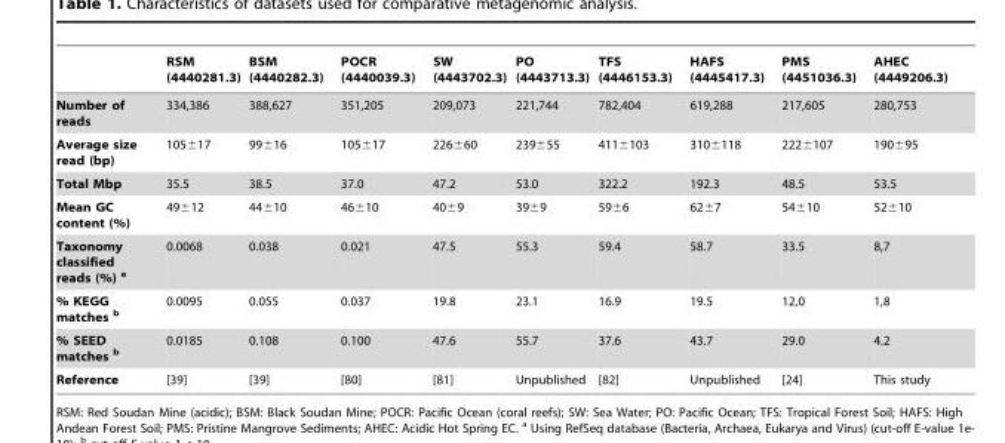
<table><thead><tr><td></td><td>RSM (4440281.3)</td><td>BSM (4440282.3)</td><td>POCR (4440039.3)</td><td>SW (4443702.3)</td><td>PO (4443713.3)</td><td>TFS (4446153.3)</td><td>HAFS (4445417.3)</td><td>PMS (4451036.3)</td><td>AHEC (4449206.3)</td></tr></thead><tbody><tr><td>Number of reads</td><td>334,386</td><td>388,627</td><td>351,205</td><td>209,073</td><td>221,744</td><td>782,404</td><td>619,288</td><td>217,605</td><td>280,753</td></tr><tr><td>Average size read (bp)</td><td>105±17</td><td>99±16</td><td>105±17</td><td>226±60</td><td>239±55</td><td>411±103</td><td>310±118</td><td>222±107</td><td>190±95</td></tr><tr><td>Total Mbp</td><td>35.5</td><td>38.5</td><td>37.0</td><td>47.2</td><td>53.0</td><td>322.2</td><td>192.3</td><td>48.5</td><td>53.5</td></tr><tr><td>Mean GC content (%)</td><td>49±12</td><td>44±10</td><td>46±10</td><td>40±9</td><td>39±9</td><td>59±6</td><td>62±7</td><td>54±10</td><td>52±10</td></tr><tr><td>Taxonomy classified reads (%) <sup>a</sup></td><td>0.0068</td><td>0.038</td><td>0.021</td><td>47.5</td><td>55.3</td><td>59.4</td><td>58.7</td><td>33.5</td><td>8,7</td></tr><tr><td>% KEGG matches <sup>b</sup></td><td>0.0095</td><td>0.055</td><td>0.037</td><td>19.8</td><td>23.1</td><td>16.9</td><td>19.5</td><td>12,0</td><td>1,8</td></tr><tr><td>% SEED matches <sup>b</sup></td><td>0.0185</td><td>0.108</td><td>0.100</td><td>47.6</td><td>55.7</td><td>37.6</td><td>43.7</td><td>29.0</td><td>4.2</td></tr><tr><td>Reference</td><td>[39]</td><td>[39]</td><td>[80]</td><td>[81]</td><td>Unpublished</td><td>[82]</td><td>Unpublished</td><td>[24]</td><td>This study</td></tr></tbody></table>